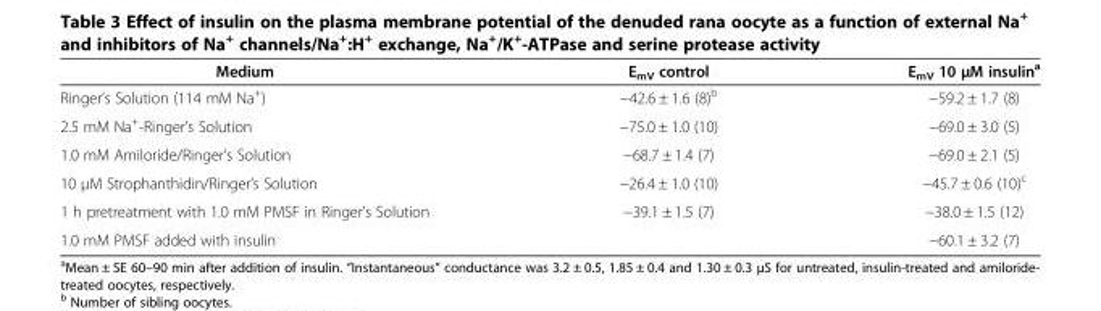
<table><thead><tr><td>Medium</td><td>E<sub>mV</sub> control</td><td>E<sub>mV</sub> 10 μM insulin<sup>a</sup></td></tr></thead><tbody><tr><td>Ringer’s Solution (114 mM Na<sup>+</sup>)</td><td>−42.6 ± 1.6 (8)<sup>b</sup></td><td>−59.2 ± 1.7 (8)</td></tr><tr><td>2.5 mM Na<sup>+</sup>-Ringer’s Solution</td><td>−75.0 ± 1.0 (10)</td><td>−69.0 ± 3.0 (5)</td></tr><tr><td>1.0 mM Amiloride/Ringer’s Solution</td><td>−68.7 ± 1.4 (7)</td><td>−69.0 ± 2.1 (5)</td></tr><tr><td>10 μM Strophanthidin/Ringer’s Solution</td><td>−26.4 ± 1.0 (10)</td><td>−45.7 ± 0.6 (10)<sup>c</sup></td></tr><tr><td>1 h pretreatment with 1.0 mM PMSF in Ringer’s Solution</td><td>−39.1 ± 1.5 (7)</td><td>−38.0 ± 1.5 (12)</td></tr><tr><td>1.0 mM PMSF added with insulin</td><td></td><td>−60.1 ± 3.2 (7)</td></tr></tbody></table>